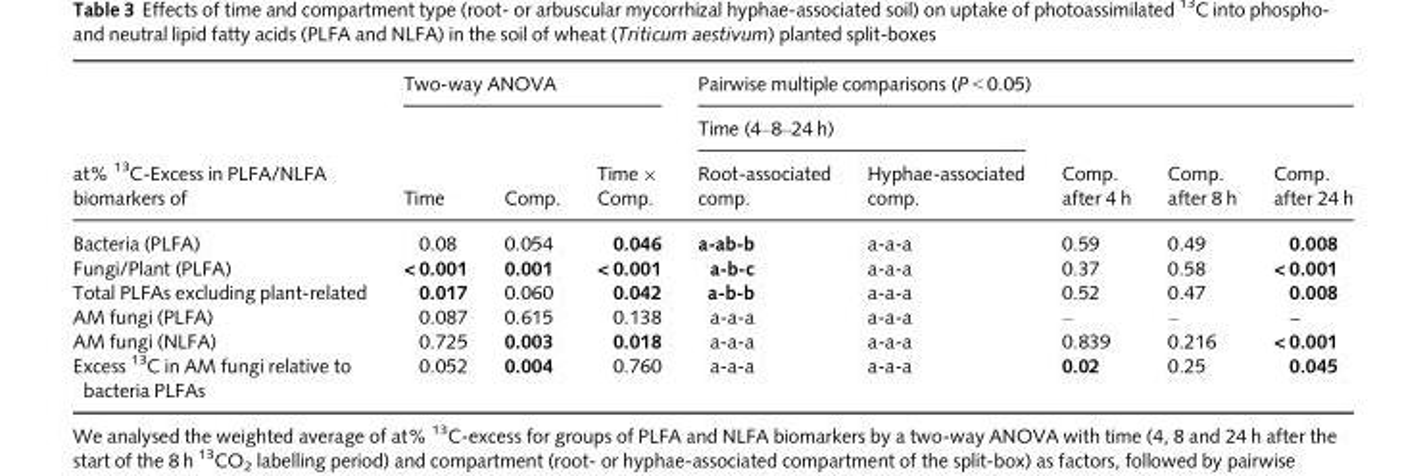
<table><thead><tr><td rowspan="3">at% <sup>13</sup>C-Excess in PLFA/NLFA biomarkers of</td><td colspan="3">Two-way ANOVA</td><td colspan="5">Pairwise multiple comparisons (P &lt; 0.05)</td></tr><tr><td rowspan="2">Time</td><td rowspan="2">Comp.</td><td rowspan="2">Time × Comp.</td><td colspan="2">Time (4–8–24 h)</td><td rowspan="2">Comp. after 4 h</td><td rowspan="2">Comp. after 8 h</td><td rowspan="2">Comp. after 24 h</td></tr><tr><td>Root-associated comp.</td><td>Hyphae-associated comp.</td></tr></thead><tbody><tr><td>Bacteria (PLFA)</td><td>0.08</td><td>0.054</td><td>0.046</td><td>a-ab-b</td><td>a-a-a</td><td>0.59</td><td>0.49</td><td>0.008</td></tr><tr><td>Fungi/Plant (PLFA)</td><td>&lt; 0.001</td><td>0.001</td><td>&lt; 0.001</td><td>a-b-c</td><td>a-a-a</td><td>0.37</td><td>0.58</td><td>&lt; 0.001</td></tr><tr><td>Total PLFAs excluding plant-related</td><td>0.017</td><td>0.060</td><td>0.042</td><td>a-b-b</td><td>a-a-a</td><td>0.52</td><td>0.47</td><td>0.008</td></tr><tr><td>AM fungi (PLFA)</td><td>0.087</td><td>0.615</td><td>0.138</td><td>a-a-a</td><td>a-a-a</td><td>–</td><td>–</td><td>–</td></tr><tr><td>AM fungi (NLFA)</td><td>0.725</td><td>0.003</td><td>0.018</td><td>a-a-a</td><td>a-a-a</td><td>0.839</td><td>0.216</td><td>&lt; 0.001</td></tr><tr><td>Excess <sup>13</sup>C in AM fungi relative to bacteria PLFAs</td><td>0.052</td><td>0.004</td><td>0.760</td><td>a-a-a</td><td>a-a-a</td><td>0.02</td><td>0.25</td><td>0.045</td></tr></tbody></table>